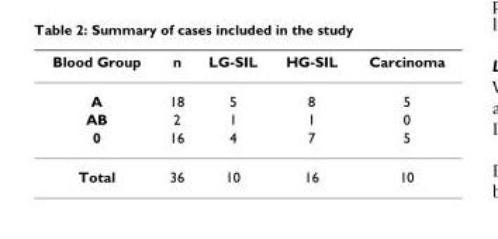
<table><thead><tr><td>Blood Group</td><td>n</td><td>LG-SIL</td><td>HG-SIL</td><td>Carcinoma</td></tr></thead><tbody><tr><td>A</td><td>18</td><td>5</td><td>8</td><td>5</td></tr><tr><td>AB</td><td>2</td><td>1</td><td>1</td><td>0</td></tr><tr><td>0</td><td>16</td><td>4</td><td>7</td><td>5</td></tr><tr><td>Total</td><td>36</td><td>10</td><td>16</td><td>10</td></tr></tbody></table>